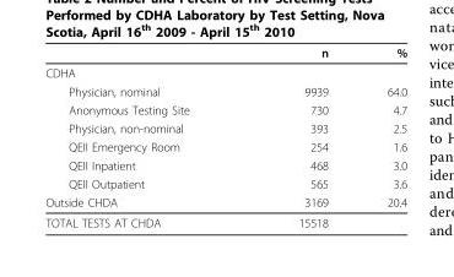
<table><thead><tr><td></td><td>n</td><td>%</td></tr></thead><tbody><tr><td colspan="3">CDHA</td></tr><tr><td>Physician, nominal</td><td>9939</td><td>64.0</td></tr><tr><td>Anonymous Testing Site</td><td>730</td><td>4.7</td></tr><tr><td>Physician, non-nominal</td><td>393</td><td>2.5</td></tr><tr><td>QEII Emergency Room</td><td>254</td><td>1.6</td></tr><tr><td>QEII Inpatient</td><td>468</td><td>3.0</td></tr><tr><td>QEII Outpatient</td><td>565</td><td>3.6</td></tr><tr><td>Outside CHDA</td><td>3169</td><td>20.4</td></tr><tr><td>TOTAL TESTS AT CHDA</td><td>15518</td><td></td></tr></tbody></table>